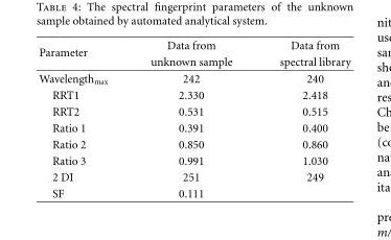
<table><thead><tr><td rowspan="2">Parameter</td><td rowspan="2">Data from unknown sample</td><td rowspan="2">Data from spectral library</td></tr><tr></tr></thead><tbody><tr><td>Wavelength<sub>max</sub></td><td>242</td><td>240</td></tr><tr><td>RRT1</td><td>2.330</td><td>2.418</td></tr><tr><td>RRT2</td><td>0.531</td><td>0.515</td></tr><tr><td>Ratio 1</td><td>0.391</td><td>0.400</td></tr><tr><td>Ratio 2</td><td>0.850</td><td>0.860</td></tr><tr><td>Ratio 3</td><td>0.991</td><td>1.030</td></tr><tr><td>2 DI</td><td>251</td><td>249</td></tr><tr><td>SF</td><td>0.111</td><td></td></tr></tbody></table>